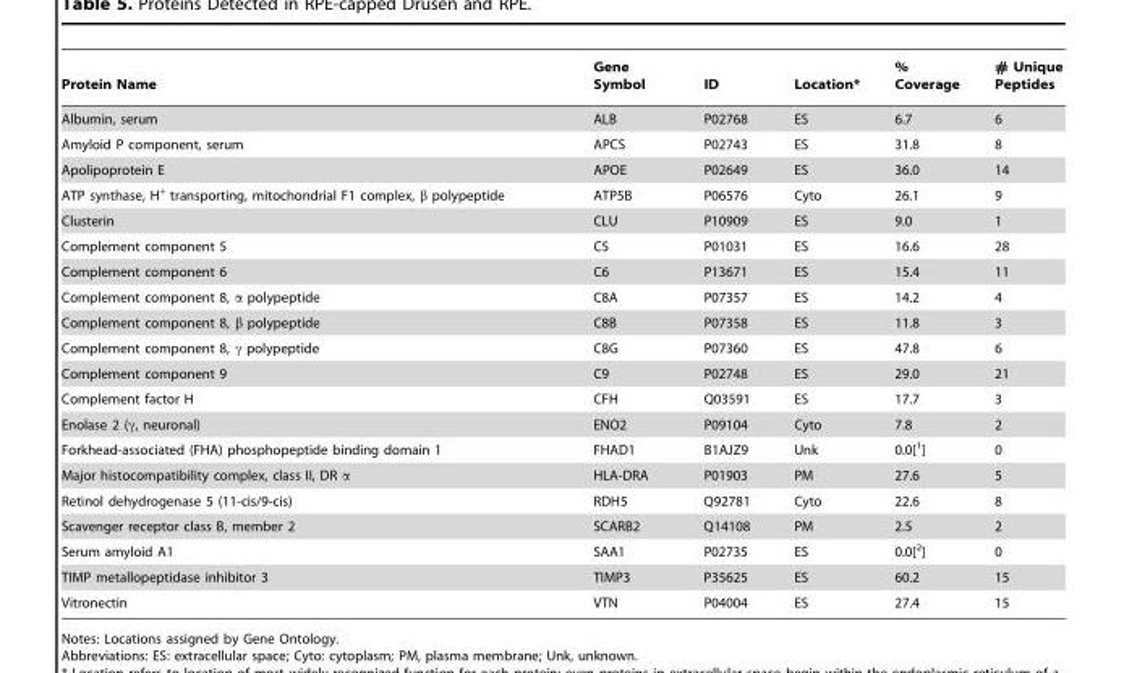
<table><thead><tr><td>Protein Name</td><td>Gene Symbol</td><td>ID</td><td>Location*</td><td>% Coverage</td><td># Unique Peptides</td></tr></thead><tbody><tr><td>Albumin, serum</td><td>ALB</td><td>P02768</td><td>ES</td><td>6.7</td><td>6</td></tr><tr><td>Amyloid P component, serum</td><td>APCS</td><td>P02743</td><td>ES</td><td>31.8</td><td>8</td></tr><tr><td>Apolipoprotein E</td><td>APOE</td><td>P02649</td><td>ES</td><td>36.0</td><td>14</td></tr><tr><td>ATP synthase, H<sup>+</sup> transporting, mitochondrial F1 complex, β polypeptide</td><td>ATP5B</td><td>P06576</td><td>Cyto</td><td>26.1</td><td>9</td></tr><tr><td>Clusterin</td><td>CLU</td><td>P10909</td><td>ES</td><td>9.0</td><td>1</td></tr><tr><td>Complement component 5</td><td>C5</td><td>P01031</td><td>ES</td><td>16.6</td><td>28</td></tr><tr><td>Complement component 6</td><td>C6</td><td>P13671</td><td>ES</td><td>15.4</td><td>11</td></tr><tr><td>Complement component 8, α polypeptide</td><td>C8A</td><td>P07357</td><td>ES</td><td>14.2</td><td>4</td></tr><tr><td>Complement component 8, β polypeptide</td><td>C8B</td><td>P07358</td><td>ES</td><td>11.8</td><td>3</td></tr><tr><td>Complement component 8, γ polypeptide</td><td>C8G</td><td>P07360</td><td>ES</td><td>47.8</td><td>6</td></tr><tr><td>Complement component 9</td><td>C9</td><td>P02748</td><td>ES</td><td>29.0</td><td>21</td></tr><tr><td>Complement factor H</td><td>CFH</td><td>Q03591</td><td>ES</td><td>17.7</td><td>3</td></tr><tr><td>Enolase 2 (γ, neuronal)</td><td>ENO2</td><td>P09104</td><td>Cyto</td><td>7.8</td><td>2</td></tr><tr><td>Forkhead-associated (FHA) phosphopeptide binding domain 1</td><td>FHAD1</td><td>B1AJZ9</td><td>Unk</td><td>0.0[<sup>1</sup>]</td><td>0</td></tr><tr><td>Major histocompatibility complex, class II, DR α</td><td>HLA-DRA</td><td>P01903</td><td>PM</td><td>27.6</td><td>5</td></tr><tr><td>Retinol dehydrogenase 5 (11-cis/9-cis)</td><td>RDH5</td><td>Q92781</td><td>Cyto</td><td>22.6</td><td>8</td></tr><tr><td>Scavenger receptor class B, member 2</td><td>SCARB2</td><td>Q14108</td><td>PM</td><td>2.5</td><td>2</td></tr><tr><td>Serum amyloid A1</td><td>SAA1</td><td>P02735</td><td>ES</td><td>0.0[<sup>2</sup>]</td><td>0</td></tr><tr><td>TIMP metallopeptidase inhibitor 3</td><td>TIMP3</td><td>P35625</td><td>ES</td><td>60.2</td><td>15</td></tr><tr><td>Vitronectin</td><td>VTN</td><td>P04004</td><td>ES</td><td>27.4</td><td>15</td></tr></tbody></table>